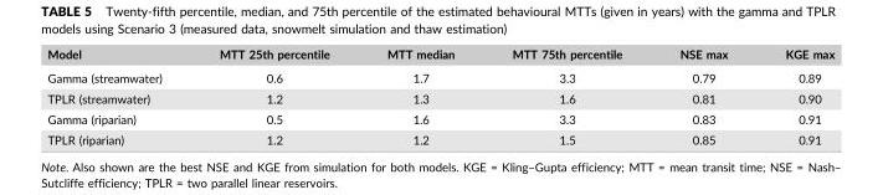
<table><thead><tr><td>Model</td><td>MTT 25th percentile</td><td>MTT median</td><td>MTT 75th percentile</td><td>NSE max</td><td>KGE max</td></tr></thead><tbody><tr><td>Gamma (streamwater)</td><td>0.6</td><td>1.7</td><td>3.3</td><td>0.79</td><td>0.89</td></tr><tr><td>TPLR (streamwater)</td><td>1.2</td><td>1.3</td><td>1.6</td><td>0.81</td><td>0.90</td></tr><tr><td>Gamma (riparian)</td><td>0.5</td><td>1.6</td><td>3.3</td><td>0.83</td><td>0.91</td></tr><tr><td>TPLR (riparian)</td><td>1.2</td><td>1.2</td><td>1.5</td><td>0.85</td><td>0.91</td></tr></tbody></table>